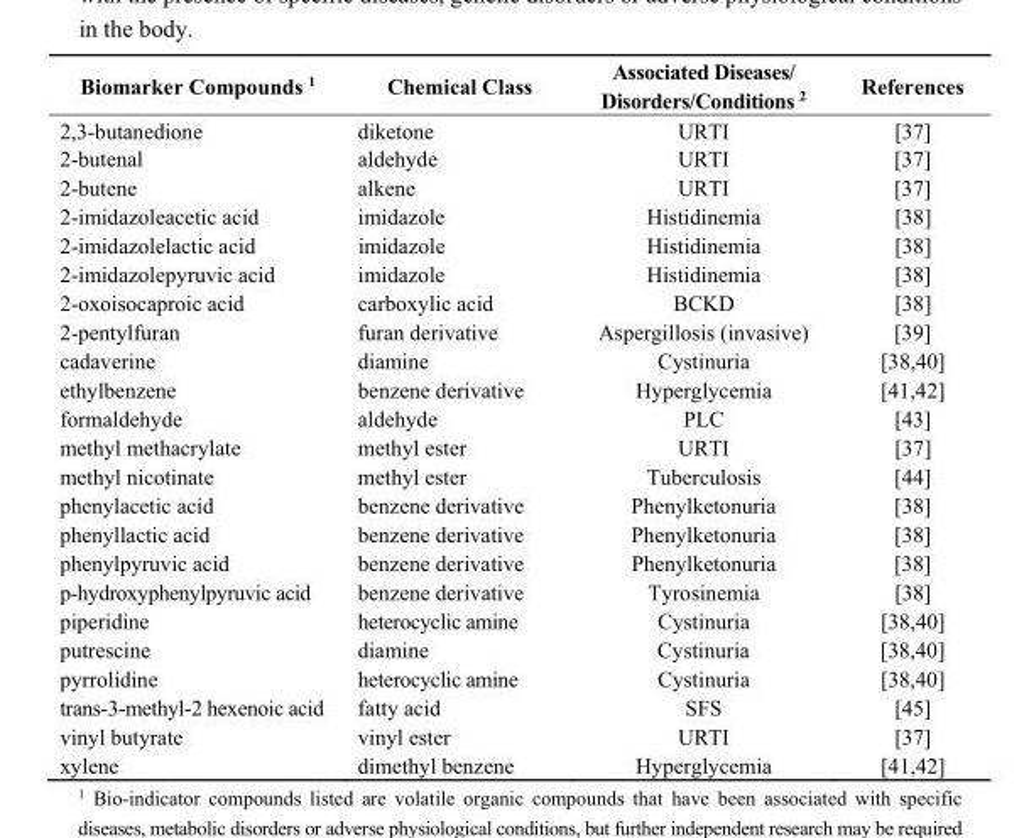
<table><thead><tr><td>Biomarker Compounds <sup>1</sup></td><td>Chemical Class</td><td>Associated Diseases/ Disorders/Conditions <sup>2</sup></td><td>References</td></tr></thead><tbody><tr><td>2,3-butanedione</td><td>diketone</td><td>URTI</td><td>[37]</td></tr><tr><td>2-butenal</td><td>aldehyde</td><td>URTI</td><td>[37]</td></tr><tr><td>2-butene</td><td>alkene</td><td>URTI</td><td>[37]</td></tr><tr><td>2-imidazoleacetic acid</td><td>imidazole</td><td>Histidinemia</td><td>[38]</td></tr><tr><td>2-imidazolelactic acid</td><td>imidazole</td><td>Histidinemia</td><td>[38]</td></tr><tr><td>2-imidazolepyruvic acid</td><td>imidazole</td><td>Histidinemia</td><td>[38]</td></tr><tr><td>2-oxoisocaproic acid</td><td>carboxylic acid</td><td>BCKD</td><td>[38]</td></tr><tr><td>2-pentylfuran</td><td>furan derivative</td><td>Aspergillosis (invasive)</td><td>[39]</td></tr><tr><td>cadaverine</td><td>diamine</td><td>Cystinuria</td><td>[38,40]</td></tr><tr><td>ethylbenzene</td><td>benzene derivative</td><td>Hyperglycemia</td><td>[41,42]</td></tr><tr><td>formaldehyde</td><td>aldehyde</td><td>PLC</td><td>[43]</td></tr><tr><td>methyl methacrylate</td><td>methyl ester</td><td>URTI</td><td>[37]</td></tr><tr><td>methyl nicotinate</td><td>methyl ester</td><td>Tuberculosis</td><td>[44]</td></tr><tr><td>phenylacetic acid</td><td>benzene derivative</td><td>Phenylketonuria</td><td>[38]</td></tr><tr><td>phenyllactic acid</td><td>benzene derivative</td><td>Phenylketonuria</td><td>[38]</td></tr><tr><td>phenylpyruvic acid</td><td>benzene derivative</td><td>Phenylketonuria</td><td>[38]</td></tr><tr><td>p-hydroxyphenylpyruvic acid</td><td>benzene derivative</td><td>Tyrosinemia</td><td>[38]</td></tr><tr><td>piperidine</td><td>heterocyclic amine</td><td>Cystinuria</td><td>[38,40]</td></tr><tr><td>putrescine</td><td>diamine</td><td>Cystinuria</td><td>[38,40]</td></tr><tr><td>pyrrolidine</td><td>heterocyclic amine</td><td>Cystinuria</td><td>[38,40]</td></tr><tr><td>trans-3-methyl-2 hexenoic acid</td><td>fatty acid</td><td>SFS</td><td>[45]</td></tr><tr><td>vinyl butyrate</td><td>vinyl ester</td><td>URTI</td><td>[37]</td></tr><tr><td>xylene</td><td>dimethyl benzene</td><td>Hyperglycemia</td><td>[41,42]</td></tr></tbody></table>